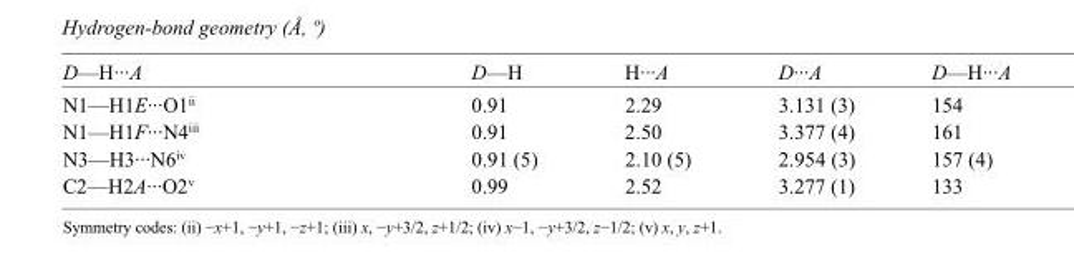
<table><tbody><tr><td>D—H···A</td><td>D—H</td><td>H···A</td><td>D···A</td><td>D—H···A</td></tr><tr><td>N1—H1E···O1<sup>ii</sup></td><td>0.91</td><td>2.29</td><td>3.131 (3)</td><td>154</td></tr><tr><td>N1—H1F···N4<sup>iii</sup></td><td>0.91</td><td>2.50</td><td>3.377 (4)</td><td>161</td></tr><tr><td>N3—H3···N6<sup>iv</sup></td><td>0.91 (5)</td><td>2.10 (5)</td><td>2.954 (3)</td><td>157 (4)</td></tr><tr><td>C2—H2A···O2<sup>v</sup></td><td>0.99</td><td>2.52</td><td>3.277 (1)</td><td>133</td></tr></tbody></table>